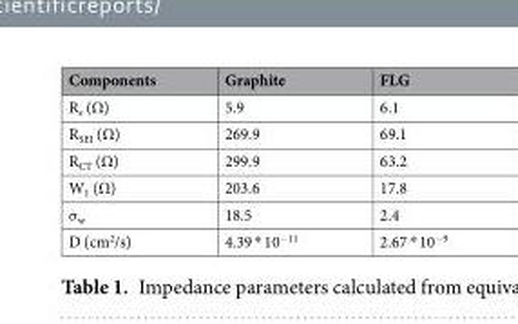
<table><thead><tr><td>Components</td><td>Graphite</td><td>FLG</td></tr></thead><tbody><tr><td>R<sub>s</sub> (Ω)</td><td>5.9</td><td>6.1</td></tr><tr><td>R<sub>SEI</sub> (Ω)</td><td>269.9</td><td>69.1</td></tr><tr><td>R<sub>CT</sub> (Ω)</td><td>299.9</td><td>63.2</td></tr><tr><td>W<sub>1</sub> (Ω)</td><td>203.6</td><td>17.8</td></tr><tr><td>σ<sub>w</sub></td><td>18.5</td><td>2.4</td></tr><tr><td>D (cm<sup>2</sup>/s)</td><td>4.39 * 10<sup>−11</sup></td><td>2.67 * 10<sup>−9</sup></td></tr></tbody></table>